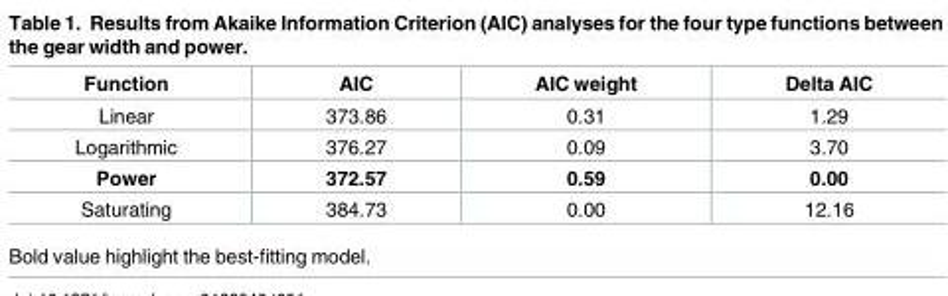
<table><thead><tr><td>Function</td><td>AIC</td><td>AIC weight</td><td>Delta AIC</td></tr></thead><tbody><tr><td>Linear</td><td>373.86</td><td>0.31</td><td>1.29</td></tr><tr><td>Logarithmic</td><td>376.27</td><td>0.09</td><td>3.70</td></tr><tr><td>Power</td><td>372.57</td><td>0.59</td><td>0.00</td></tr><tr><td>Saturating</td><td>384.73</td><td>0.00</td><td>12.16</td></tr></tbody></table>